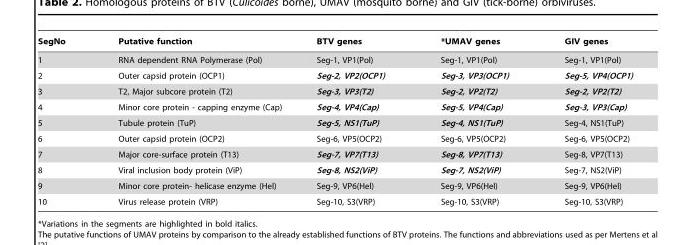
<table><thead><tr><td>SegNo</td><td>Putative function</td><td>BTV genes</td><td>*UMAV genes</td><td>GIV genes</td></tr></thead><tbody><tr><td>1</td><td>RNA dependent RNA Polymerase (Pol)</td><td>Seg-1, VP1(Pol)</td><td>Seg-1, VP1(Pol)</td><td>Seg-1, VP1(Pol)</td></tr><tr><td>2</td><td>Outer capsid protein (OCP1)</td><td>Seg-2, VP2(OCP1)</td><td>Seg-3, VP3(OCP1)</td><td>Seg-5, VP4(OCP1)</td></tr><tr><td>3</td><td>T2, Major subcore protein (T2)</td><td>Seg-3, VP3(T2)</td><td>Seg-2, VP2(T2)</td><td>Seg-2, VP2(T2)</td></tr><tr><td>4</td><td>Minor core protein - capping enzyme (Cap)</td><td>Seg-4, VP4(Cap)</td><td>Seg-5, VP4(Cap)</td><td>Seg-3, VP3(Cap)</td></tr><tr><td>5</td><td>Tubule protein (TuP)</td><td>Seg-5, NS1(TuP)</td><td>Seg-4, NS1(TuP)</td><td>Seg-4, NS1(TuP)</td></tr><tr><td>6</td><td>Outer capsid protein (OCP2)</td><td>Seg-6, VP5(OCP2)</td><td>Seg-6, VP5(OCP2)</td><td>Seg-6, VP5(OCP2)</td></tr><tr><td>7</td><td>Major core-surface protein (T13)</td><td>Seg-7, VP7(T13)</td><td>Seg-8, VP7(T13)</td><td>Seg-8, VP7(T13)</td></tr><tr><td>8</td><td>Viral inclusion body protein (ViP)</td><td>Seg-8, NS2(ViP)</td><td>Seg-7, NS2(ViP)</td><td>Seg-7, NS2(ViP)</td></tr><tr><td>9</td><td>Minor core protein- helicase enzyme (Hel)</td><td>Seg-9, VP6(Hel)</td><td>Seg-9, VP6(Hel)</td><td>Seg-9, VP6(Hel)</td></tr><tr><td>10</td><td>Virus release protein (VRP)</td><td>Seg-10, S3(VRP)</td><td>Seg-10, S3(VRP)</td><td>Seg-10, S3(VRP)</td></tr></tbody></table>